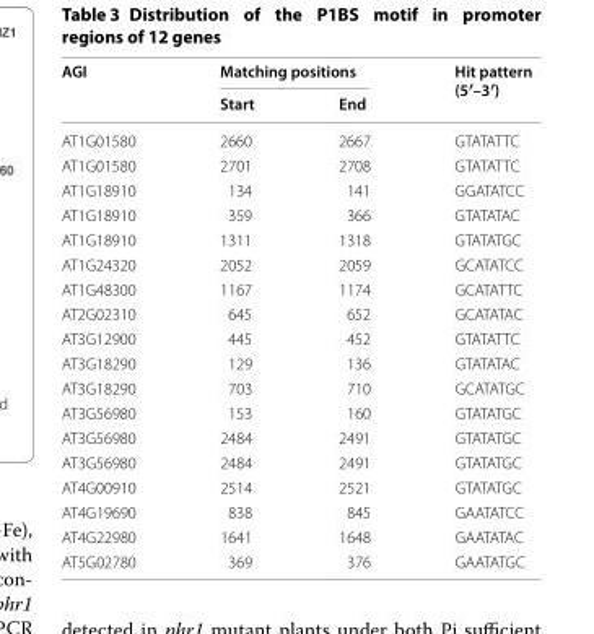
<table><thead><tr><td rowspan="2">AGI</td><td colspan="2">Matching positions</td><td rowspan="2">Hit pattern (5′–3′)</td></tr><tr><td>Start</td><td>End</td></tr></thead><tbody><tr><td>AT1G01580</td><td>2660</td><td>2667</td><td>GTATATTC</td></tr><tr><td>AT1G01580</td><td>2701</td><td>2708</td><td>GTATATTC</td></tr><tr><td>AT1G18910</td><td>134</td><td>141</td><td>GGATATCC</td></tr><tr><td>AT1G18910</td><td>359</td><td>366</td><td>GTATATAC</td></tr><tr><td>AT1G18910</td><td>1311</td><td>1318</td><td>GTATATGC</td></tr><tr><td>AT1G24320</td><td>2052</td><td>2059</td><td>GCATATCC</td></tr><tr><td>AT1G48300</td><td>1167</td><td>1174</td><td>GCATATTC</td></tr><tr><td>AT2G02310</td><td>645</td><td>652</td><td>GCATATAC</td></tr><tr><td>AT3G12900</td><td>445</td><td>452</td><td>GTATATTC</td></tr><tr><td>AT3G18290</td><td>129</td><td>136</td><td>GTATATAC</td></tr><tr><td>AT3G18290</td><td>703</td><td>710</td><td>GCATATGC</td></tr><tr><td>AT3G56980</td><td>153</td><td>160</td><td>GTATATGC</td></tr><tr><td>AT3G56980</td><td>2484</td><td>2491</td><td>GTATATGC</td></tr><tr><td>AT3G56980</td><td>2484</td><td>2491</td><td>GTATATGC</td></tr><tr><td>AT4G00910</td><td>2514</td><td>2521</td><td>GTATATGC</td></tr><tr><td>AT4G19690</td><td>838</td><td>845</td><td>GAATATCC</td></tr><tr><td>AT4G22980</td><td>1641</td><td>1648</td><td>GAATATAC</td></tr><tr><td>AT5G02780</td><td>369</td><td>376</td><td>GAATATGC</td></tr></tbody></table>